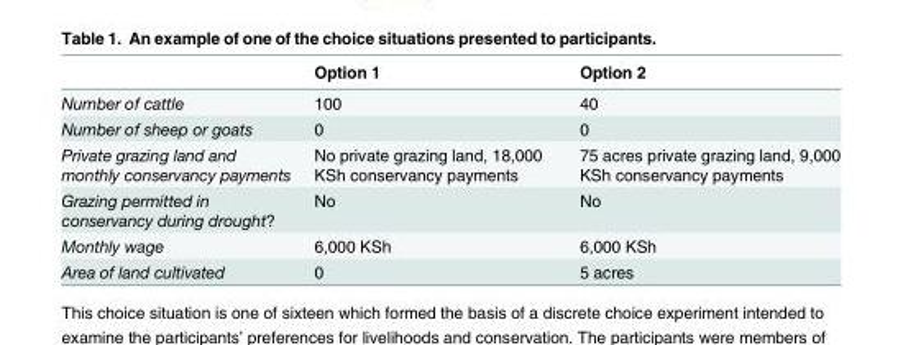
<table><thead><tr><td></td><td>Option 1</td><td>Option 2</td></tr></thead><tbody><tr><td>Number of cattle</td><td>100</td><td>40</td></tr><tr><td>Number of sheep or goats</td><td>0</td><td>0</td></tr><tr><td>Private grazing land and monthly conservancy payments</td><td>No private grazing land, 18,000 KSh conservancy payments</td><td>75 acres private grazing land, 9,000 KSh conservancy payments</td></tr><tr><td>Grazing permitted in conservancy during drought?</td><td>No</td><td>No</td></tr><tr><td>Monthly wage</td><td>6,000 KSh</td><td>6,000 KSh</td></tr><tr><td>Area of land cultivated</td><td>0</td><td>5 acres</td></tr></tbody></table>